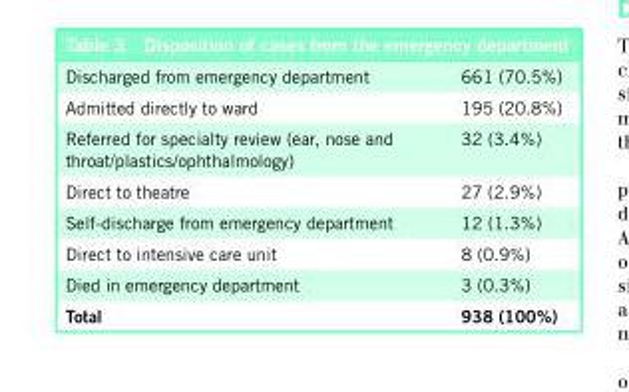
<table><tbody><tr><td>Discharged from emergency department</td><td>661 (70.5%)</td></tr><tr><td>Admitted directly to ward</td><td>195 (20.8%)</td></tr><tr><td>Referred for specialty review (ear, nose and throat/plastics/ophthalmology)</td><td>32 (3.4%)</td></tr><tr><td>Direct to theatre</td><td>27 (2.9%)</td></tr><tr><td>Self-discharge from emergency department</td><td>12 (1.3%)</td></tr><tr><td>Direct to intensive care unit</td><td>8 (0.9%)</td></tr><tr><td>Died in emergency department</td><td>3 (0.3%)</td></tr><tr><td>Total</td><td>938 (100%)</td></tr></tbody></table>